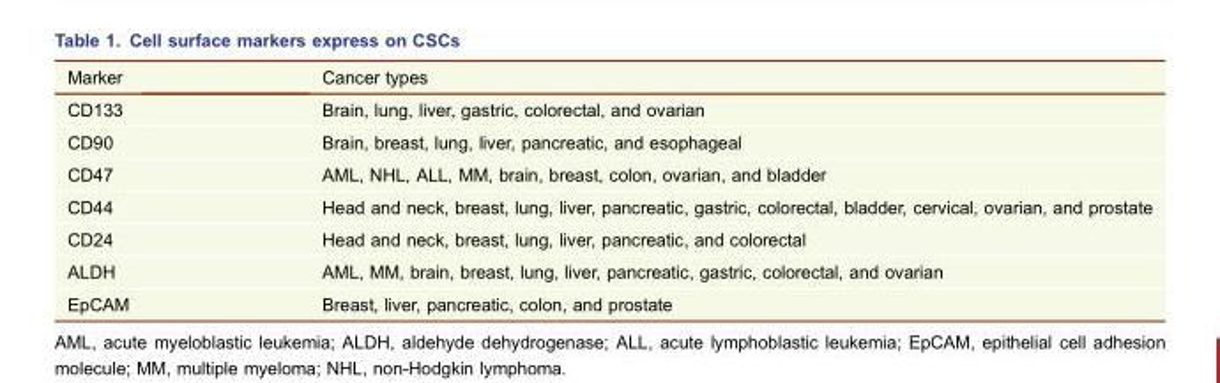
<table><thead><tr><td>Marker</td><td>Cancer types</td></tr></thead><tbody><tr><td>CD133</td><td>Brain, lung, liver, gastric, colorectal, and ovarian</td></tr><tr><td>CD90</td><td>Brain, breast, lung, liver, pancreatic, and esophageal</td></tr><tr><td>CD47</td><td>AML, NHL, ALL, MM, brain, breast, colon, ovarian, and bladder</td></tr><tr><td>CD44</td><td>Head and neck, breast, lung, liver, pancreatic, gastric, colorectal, bladder, cervical, ovarian, and prostate</td></tr><tr><td>CD24</td><td>Head and neck, breast, lung, liver, pancreatic, and colorectal</td></tr><tr><td>ALDH</td><td>AML, MM, brain, breast, lung, liver, pancreatic, gastric, colorectal, and ovarian</td></tr><tr><td>EpCAM</td><td>Breast, liver, pancreatic, colon, and prostate</td></tr></tbody></table>